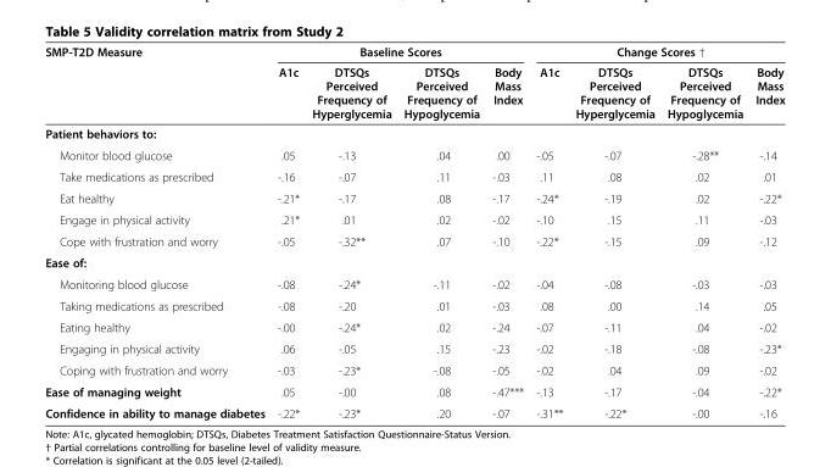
<table><thead><tr><td rowspan="2">SMP-T2D Measure</td><td colspan="4">Baseline Scores</td><td colspan="4">Change Scores †</td></tr><tr><td>A1c</td><td>DTSQs Perceived Frequency of Hyperglycemia</td><td>DTSQs Perceived Frequency of Hypoglycemia</td><td>Body Mass Index</td><td>A1c</td><td>DTSQs Perceived Frequency of Hyperglycemia</td><td>DTSQs Perceived Frequency of Hypoglycemia</td><td>Body Mass Index</td></tr></thead><tbody><tr><td colspan="9">Patient behaviors to:</td></tr><tr><td>Monitor blood glucose</td><td>.05</td><td>-.13</td><td>.04</td><td>.00</td><td>-.05</td><td>-.07</td><td>-.28**</td><td>-.14</td></tr><tr><td>Take medications as prescribed</td><td>-.16</td><td>-.07</td><td>.11</td><td>-.03</td><td>.11</td><td>.08</td><td>.02</td><td>.01</td></tr><tr><td>Eat healthy</td><td>-.21*</td><td>-.17</td><td>.08</td><td>-.17</td><td>-.24*</td><td>-.19</td><td>.02</td><td>-.22*</td></tr><tr><td>Engage in physical activity</td><td>.21*</td><td>.01</td><td>.02</td><td>-.02</td><td>-.10</td><td>.15</td><td>.11</td><td>-.03</td></tr><tr><td>Cope with frustration and worry</td><td>-.05</td><td>-.32**</td><td>.07</td><td>-.10</td><td>-.22*</td><td>-.15</td><td>.09</td><td>-.12</td></tr><tr><td colspan="9">Ease of:</td></tr><tr><td>Monitoring blood glucose</td><td>-.08</td><td>-.24*</td><td>-.11</td><td>-.02</td><td>-.04</td><td>-.08</td><td>-.03</td><td>-.03</td></tr><tr><td>Taking medications as prescribed</td><td>-.08</td><td>-.20</td><td>.01</td><td>-.03</td><td>.08</td><td>.00</td><td>.14</td><td>.05</td></tr><tr><td>Eating healthy</td><td>-.00</td><td>-.24*</td><td>.02</td><td>-.24</td><td>-.07</td><td>-.11</td><td>.04</td><td>-.02</td></tr><tr><td>Engaging in physical activity</td><td>.06</td><td>-.05</td><td>.15</td><td>-.23</td><td>-.02</td><td>-.18</td><td>-.08</td><td>-.23*</td></tr><tr><td>Coping with frustration and worry</td><td>-.03</td><td>-.23*</td><td>-.08</td><td>-.05</td><td>-.02</td><td>.04</td><td>.09</td><td>-.02</td></tr><tr><td>Ease of managing weight</td><td>.05</td><td>-.00</td><td>.08</td><td>-.47***</td><td>-.13</td><td>-.17</td><td>-.04</td><td>-.22*</td></tr><tr><td>Confidence in ability to manage diabetes</td><td>-.22*</td><td>-.23*</td><td>.20</td><td>-.07</td><td>-.31**</td><td>-.22*</td><td>-.00</td><td>-.16</td></tr></tbody></table>